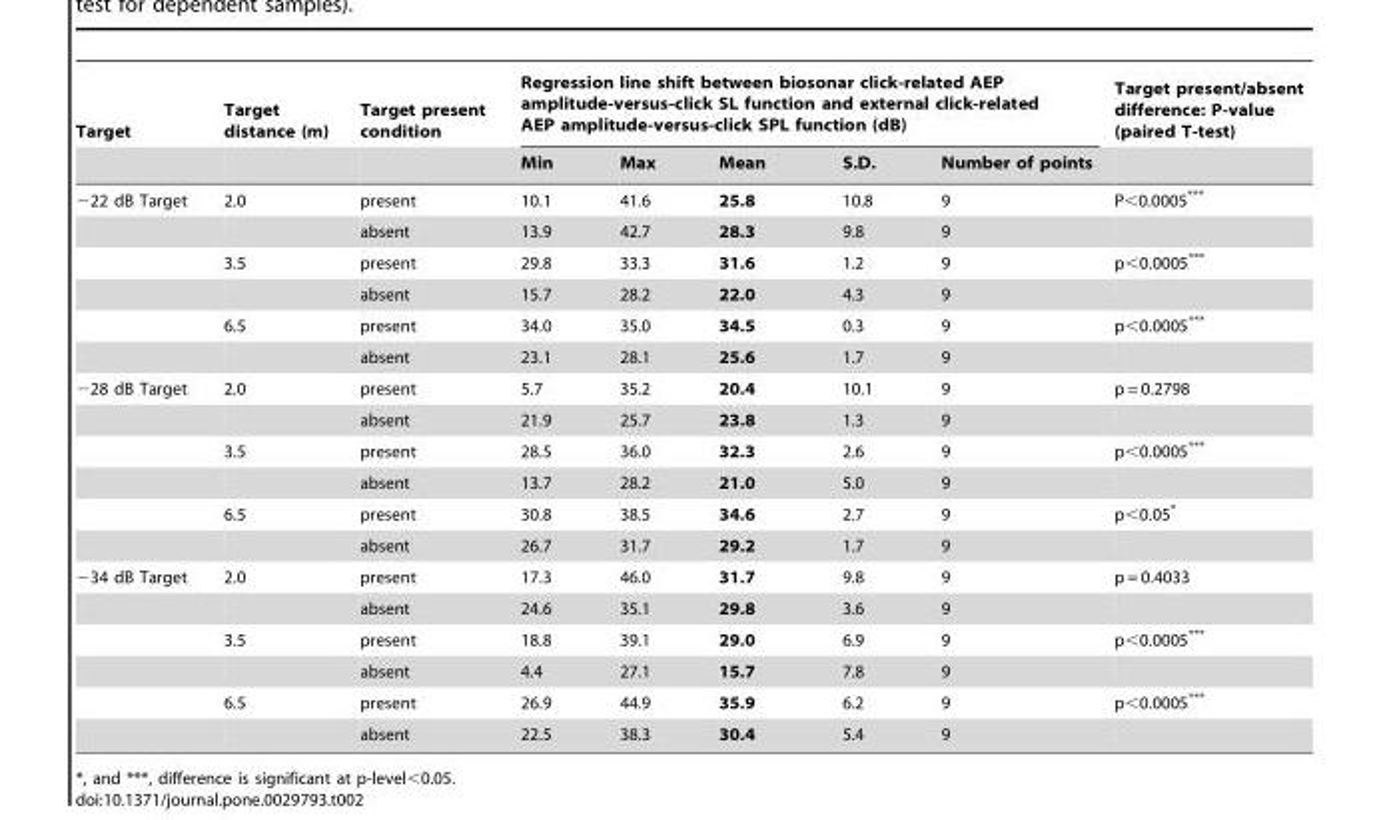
<table><thead><tr><td rowspan="2">Target</td><td rowspan="2">Target distance (m)</td><td rowspan="2">Target present condition</td><td colspan="5">Regression line shift between biosonar click-related AEP amplitude-versus-click SL function and external click-related AEP amplitude-versus-click SPL function (dB)</td><td rowspan="2">Target present/absent difference: P-value (paired T-test)</td></tr><tr><td>Min</td><td>Max</td><td>Mean</td><td>S.D.</td><td>Number of points</td></tr></thead><tbody><tr><td rowspan="6">−22 dB Target</td><td>2.0</td><td>present</td><td>10.1</td><td>41.6</td><td>25.8</td><td>10.8</td><td>9</td><td>P&lt;0.0005***</td></tr><tr><td></td><td>absent</td><td>13.9</td><td>42.7</td><td>28.3</td><td>9.8</td><td>9</td><td></td></tr><tr><td>3.5</td><td>present</td><td>29.8</td><td>33.3</td><td>31.6</td><td>1.2</td><td>9</td><td>p&lt;0.0005***</td></tr><tr><td></td><td>absent</td><td>15.7</td><td>28.2</td><td>22.0</td><td>4.3</td><td>9</td><td></td></tr><tr><td>6.5</td><td>present</td><td>34.0</td><td>35.0</td><td>34.5</td><td>0.3</td><td>9</td><td>p&lt;0.0005***</td></tr><tr><td></td><td>absent</td><td>23.1</td><td>28.1</td><td>25.6</td><td>1.7</td><td>9</td><td></td></tr><tr><td rowspan="6">−28 dB Target</td><td>2.0</td><td>present</td><td>5.7</td><td>35.2</td><td>20.4</td><td>10.1</td><td>9</td><td>p = 0.2798</td></tr><tr><td></td><td>absent</td><td>21.9</td><td>25.7</td><td>23.8</td><td>1.3</td><td>9</td><td></td></tr><tr><td>3.5</td><td>present</td><td>28.5</td><td>36.0</td><td>32.3</td><td>2.6</td><td>9</td><td>p&lt;0.0005***</td></tr><tr><td></td><td>absent</td><td>13.7</td><td>28.2</td><td>21.0</td><td>5.0</td><td>9</td><td></td></tr><tr><td>6.5</td><td>present</td><td>30.8</td><td>38.5</td><td>34.6</td><td>2.7</td><td>9</td><td>p&lt;0.05*</td></tr><tr><td></td><td>absent</td><td>26.7</td><td>31.7</td><td>29.2</td><td>1.7</td><td>9</td><td></td></tr><tr><td rowspan="6">−34 dB Target</td><td>2.0</td><td>present</td><td>17.3</td><td>46.0</td><td>31.7</td><td>9.8</td><td>9</td><td>p = 0.4033</td></tr><tr><td></td><td>absent</td><td>24.6</td><td>35.1</td><td>29.8</td><td>3.6</td><td>9</td><td></td></tr><tr><td>3.5</td><td>present</td><td>18.8</td><td>39.1</td><td>29.0</td><td>6.9</td><td>9</td><td>p&lt;0.0005***</td></tr><tr><td></td><td>absent</td><td>4.4</td><td>27.1</td><td>15.7</td><td>7.8</td><td>9</td><td></td></tr><tr><td>6.5</td><td>present</td><td>26.9</td><td>44.9</td><td>35.9</td><td>6.2</td><td>9</td><td>p&lt;0.0005***</td></tr><tr><td></td><td>absent</td><td>22.5</td><td>38.3</td><td>30.4</td><td>5.4</td><td>9</td><td></td></tr></tbody></table>